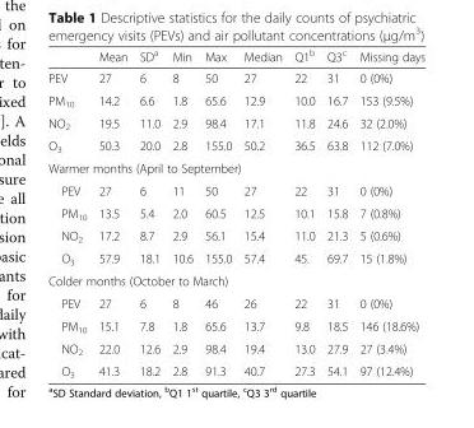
<table><thead><tr><td></td><td>Mean</td><td>SD<sup>a</sup></td><td>Min</td><td>Max</td><td>Median</td><td>Q1<sup>b</sup></td><td>Q3<sup>c</sup></td><td>Missing days</td></tr></thead><tbody><tr><td>PEV</td><td>27</td><td>6</td><td>8</td><td>50</td><td>27</td><td>22</td><td>31</td><td>0 (0%)</td></tr><tr><td>PM<sub>10</sub></td><td>14.2</td><td>6.6</td><td>1.8</td><td>65.6</td><td>12.9</td><td>10.0</td><td>16.7</td><td>153 (9.5%)</td></tr><tr><td>NO<sub>2</sub></td><td>19.5</td><td>11.0</td><td>2.9</td><td>98.4</td><td>17.1</td><td>11.8</td><td>24.6</td><td>32 (2.0%)</td></tr><tr><td>O<sub>3</sub></td><td>50.3</td><td>20.0</td><td>2.8</td><td>155.0</td><td>50.2</td><td>36.5</td><td>63.8</td><td>112 (7.0%)</td></tr><tr><td colspan="9">Warmer months (April to September)</td></tr><tr><td>PEV</td><td>27</td><td>6</td><td>11</td><td>50</td><td>27</td><td>22</td><td>31</td><td>0 (0%)</td></tr><tr><td>PM<sub>10</sub></td><td>13.5</td><td>5.4</td><td>2.0</td><td>60.5</td><td>12.5</td><td>10.1</td><td>15.8</td><td>7 (0.8%)</td></tr><tr><td>NO<sub>2</sub></td><td>17.2</td><td>8.7</td><td>2.9</td><td>56.1</td><td>15.4</td><td>11.0</td><td>21.3</td><td>5 (0.6%)</td></tr><tr><td>O<sub>3</sub></td><td>57.9</td><td>18.1</td><td>10.6</td><td>155.0</td><td>57.4</td><td>45.</td><td>69.7</td><td>15 (1.8%)</td></tr><tr><td colspan="9">Colder months (October to March)</td></tr><tr><td>PEV</td><td>27</td><td>6</td><td>8</td><td>46</td><td>26</td><td>22</td><td>31</td><td>0 (0%)</td></tr><tr><td>PM<sub>10</sub></td><td>15.1</td><td>7.8</td><td>1.8</td><td>65.6</td><td>13.7</td><td>9.8</td><td>18.5</td><td>146 (18.6%)</td></tr><tr><td>NO<sub>2</sub></td><td>22.0</td><td>12.6</td><td>2.9</td><td>98.4</td><td>19.4</td><td>13.0</td><td>27.9</td><td>27 (3.4%)</td></tr><tr><td>O<sub>3</sub></td><td>41.3</td><td>18.2</td><td>2.8</td><td>91.3</td><td>40.7</td><td>27.3</td><td>54.1</td><td>97 (12.4%)</td></tr></tbody></table>